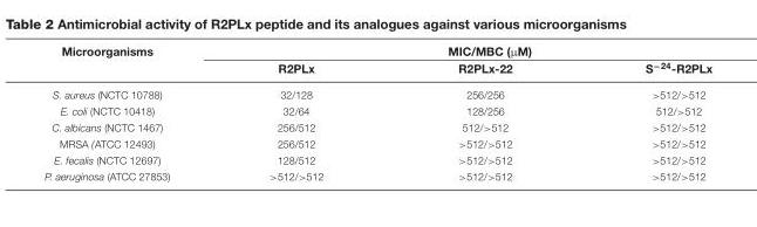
<table><thead><tr><td rowspan="2">Microorganisms</td><td colspan="3">MIC/MBC (μM)</td></tr><tr><td>R2PLx</td><td>R2PLx-22</td><td>S<sup>−24</sup>-R2PLx</td></tr></thead><tbody><tr><td>S. aureus (NCTC 10788)</td><td>32/128</td><td>256/256</td><td>&gt;512/&gt;512</td></tr><tr><td>E. coli (NCTC 10418)</td><td>32/64</td><td>128/256</td><td>512/&gt;512</td></tr><tr><td>C. albicans (NCTC 1467)</td><td>256/512</td><td>512/&gt;512</td><td>&gt;512/&gt;512</td></tr><tr><td>MRSA (ATCC 12493)</td><td>256/512</td><td>&gt;512/&gt;512</td><td>&gt;512/&gt;512</td></tr><tr><td>E. fecalis (NCTC 12697)</td><td>128/512</td><td>&gt;512/&gt;512</td><td>&gt;512/&gt;512</td></tr><tr><td>P. aeruginosa (ATCC 27853)</td><td>&gt;512/&gt;512</td><td>&gt;512/&gt;512</td><td>&gt;512/&gt;512</td></tr></tbody></table>